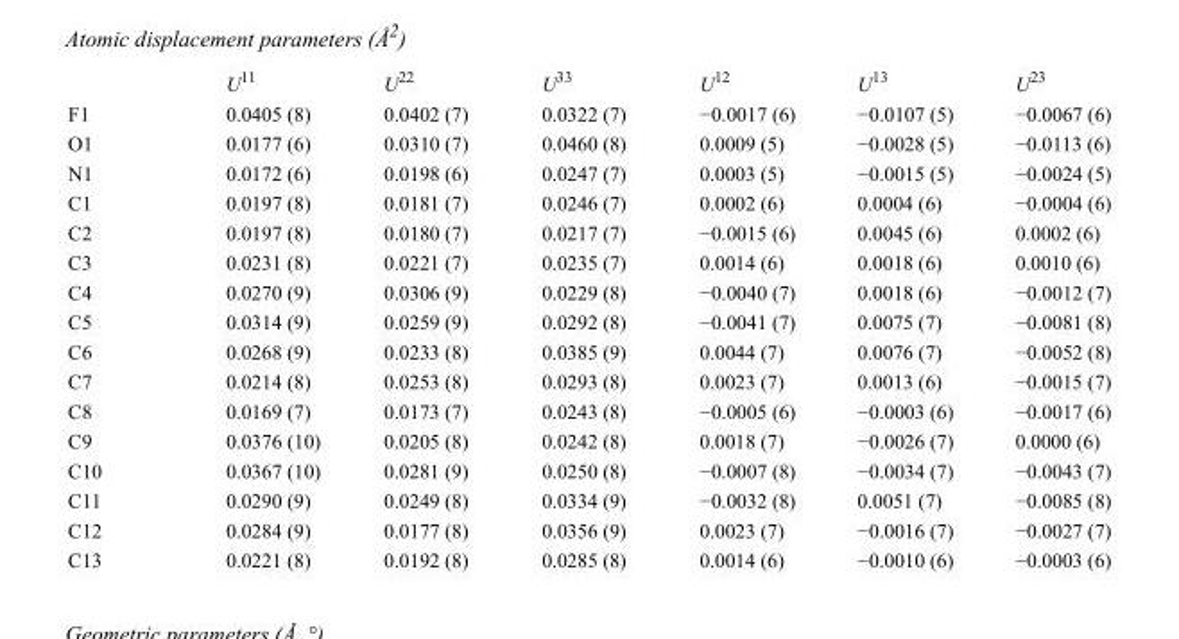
<table><thead><tr><td></td><td>U<sup>11</sup></td><td>U<sup>22</sup></td><td>U<sup>33</sup></td><td>U<sup>12</sup></td><td>U<sup>13</sup></td><td>U<sup>23</sup></td></tr></thead><tbody><tr><td>F1</td><td>0.0405 (8)</td><td>0.0402 (7)</td><td>0.0322 (7)</td><td>−0.0017 (6)</td><td>−0.0107 (5)</td><td>−0.0067 (6)</td></tr><tr><td>O1</td><td>0.0177 (6)</td><td>0.0310 (7)</td><td>0.0460 (8)</td><td>0.0009 (5)</td><td>−0.0028 (5)</td><td>−0.0113 (6)</td></tr><tr><td>N1</td><td>0.0172 (6)</td><td>0.0198 (6)</td><td>0.0247 (7)</td><td>0.0003 (5)</td><td>−0.0015 (5)</td><td>−0.0024 (5)</td></tr><tr><td>C1</td><td>0.0197 (8)</td><td>0.0181 (7)</td><td>0.0246 (7)</td><td>0.0002 (6)</td><td>0.0004 (6)</td><td>−0.0004 (6)</td></tr><tr><td>C2</td><td>0.0197 (8)</td><td>0.0180 (7)</td><td>0.0217 (7)</td><td>−0.0015 (6)</td><td>0.0045 (6)</td><td>0.0002 (6)</td></tr><tr><td>C3</td><td>0.0231 (8)</td><td>0.0221 (7)</td><td>0.0235 (7)</td><td>0.0014 (6)</td><td>0.0018 (6)</td><td>0.0010 (6)</td></tr><tr><td>C4</td><td>0.0270 (9)</td><td>0.0306 (9)</td><td>0.0229 (8)</td><td>−0.0040 (7)</td><td>0.0018 (6)</td><td>−0.0012 (7)</td></tr><tr><td>C5</td><td>0.0314 (9)</td><td>0.0259 (9)</td><td>0.0292 (8)</td><td>−0.0041 (7)</td><td>0.0075 (7)</td><td>−0.0081 (8)</td></tr><tr><td>C6</td><td>0.0268 (9)</td><td>0.0233 (8)</td><td>0.0385 (9)</td><td>0.0044 (7)</td><td>0.0076 (7)</td><td>−0.0052 (8)</td></tr><tr><td>C7</td><td>0.0214 (8)</td><td>0.0253 (8)</td><td>0.0293 (8)</td><td>0.0023 (7)</td><td>0.0013 (6)</td><td>−0.0015 (7)</td></tr><tr><td>C8</td><td>0.0169 (7)</td><td>0.0173 (7)</td><td>0.0243 (8)</td><td>−0.0005 (6)</td><td>−0.0003 (6)</td><td>−0.0017 (6)</td></tr><tr><td>C9</td><td>0.0376 (10)</td><td>0.0205 (8)</td><td>0.0242 (8)</td><td>0.0018 (7)</td><td>−0.0026 (7)</td><td>0.0000 (6)</td></tr><tr><td>C10</td><td>0.0367 (10)</td><td>0.0281 (9)</td><td>0.0250 (8)</td><td>−0.0007 (8)</td><td>−0.0034 (7)</td><td>−0.0043 (7)</td></tr><tr><td>C11</td><td>0.0290 (9)</td><td>0.0249 (8)</td><td>0.0334 (9)</td><td>−0.0032 (8)</td><td>0.0051 (7)</td><td>−0.0085 (8)</td></tr><tr><td>C12</td><td>0.0284 (9)</td><td>0.0177 (8)</td><td>0.0356 (9)</td><td>0.0023 (7)</td><td>−0.0016 (7)</td><td>−0.0027 (7)</td></tr><tr><td>C13</td><td>0.0221 (8)</td><td>0.0192 (8)</td><td>0.0285 (8)</td><td>0.0014 (6)</td><td>−0.0010 (6)</td><td>−0.0003 (6)</td></tr></tbody></table>